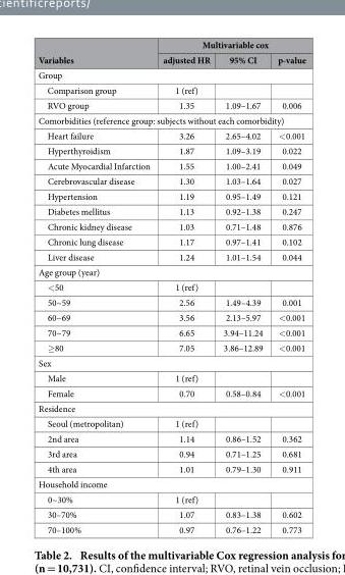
<table><thead><tr><td rowspan="2">Variables</td><td colspan="3">Multivariable cox</td></tr><tr><td>adjusted HR</td><td>95% CI</td><td>p-value</td></tr></thead><tbody><tr><td colspan="4">Group</td></tr><tr><td>Comparison group</td><td>1 (ref)</td><td></td><td></td></tr><tr><td>RVO group</td><td>1.35</td><td>1.09–1.67</td><td>0.006</td></tr><tr><td colspan="4">Comorbidities (reference group: subjects without each comorbidity)</td></tr><tr><td>Heart failure</td><td>3.26</td><td>2.65–4.02</td><td>&lt; 0.001</td></tr><tr><td>Hyperthyroidism</td><td>1.87</td><td>1.09–3.19</td><td>0.022</td></tr><tr><td>Acute Myocardial Infarction</td><td>1.55</td><td>1.00–2.41</td><td>0.049</td></tr><tr><td>Cerebrovascular disease</td><td>1.30</td><td>1.03–1.64</td><td>0.027</td></tr><tr><td>Hypertension</td><td>1.19</td><td>0.95–1.49</td><td>0.121</td></tr><tr><td>Diabetes mellitus</td><td>1.13</td><td>0.92–1.38</td><td>0.247</td></tr><tr><td>Chronic kidney disease</td><td>1.03</td><td>0.71–1.48</td><td>0.876</td></tr><tr><td>Chronic lung disease</td><td>1.17</td><td>0.97–1.41</td><td>0.102</td></tr><tr><td>Liver disease</td><td>1.24</td><td>1.01–1.54</td><td>0.044</td></tr><tr><td colspan="4">Age group (year)</td></tr><tr><td>&lt; 50</td><td>1 (ref)</td><td></td><td></td></tr><tr><td>50~59</td><td>2.56</td><td>1.49–4.39</td><td>0.001</td></tr><tr><td>60~69</td><td>3.56</td><td>2.13–5.97</td><td>&lt; 0.001</td></tr><tr><td>70~79</td><td>6.65</td><td>3.94–11.24</td><td>&lt; 0.001</td></tr><tr><td>≥ 80</td><td>7.05</td><td>3.86–12.89</td><td>&lt; 0.001</td></tr><tr><td colspan="4">Sex</td></tr><tr><td>Male</td><td>1 (ref)</td><td></td><td></td></tr><tr><td>Female</td><td>0.70</td><td>0.58–0.84</td><td>&lt; 0.001</td></tr><tr><td colspan="4">Residence</td></tr><tr><td>Seoul (metropolitan)</td><td>1 (ref)</td><td></td><td></td></tr><tr><td>2nd area</td><td>1.14</td><td>0.86–1.52</td><td>0.362</td></tr><tr><td>3rd area</td><td>0.94</td><td>0.71–1.25</td><td>0.681</td></tr><tr><td>4th area</td><td>1.01</td><td>0.79–1.30</td><td>0.911</td></tr><tr><td colspan="4">Household income</td></tr><tr><td>0~30%</td><td>1 (ref)</td><td></td><td></td></tr><tr><td>30–70%</td><td>1.07</td><td>0.83–1.38</td><td>0.602</td></tr><tr><td>70–100%</td><td>0.97</td><td>0.76–1.22</td><td>0.773</td></tr></tbody></table>